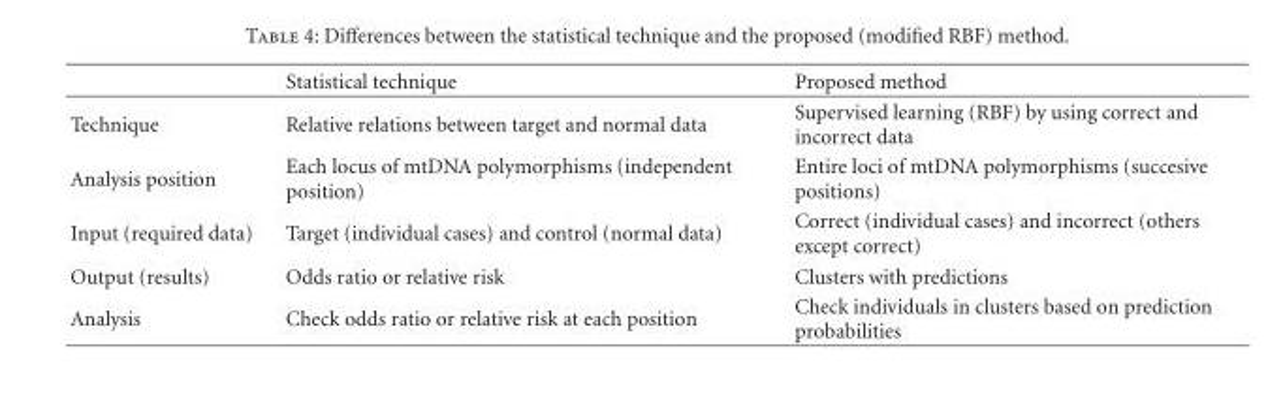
<table><thead><tr><td></td><td>Statistical technique</td><td>Proposed method</td></tr></thead><tbody><tr><td>Technique</td><td>Relative relations between target and normal data</td><td>Supervised learning (RBF) by using correct and incorrect data</td></tr><tr><td>Analysis position</td><td>Each locus of mtDNA polymorphisms (independent position)</td><td>Entire loci of mtDNA polymorphisms (succesive positions)</td></tr><tr><td>Input (required data)</td><td>Target (individual cases) and control (normal data)</td><td>Correct (individual cases) and incorrect (others except correct)</td></tr><tr><td>Output (results)</td><td>Odds ratio or relative risk</td><td>Clusters with predictions</td></tr><tr><td>Analysis</td><td>Check odds ratio or relative risk at each position</td><td>Check individuals in clusters based on prediction probabilities</td></tr></tbody></table>